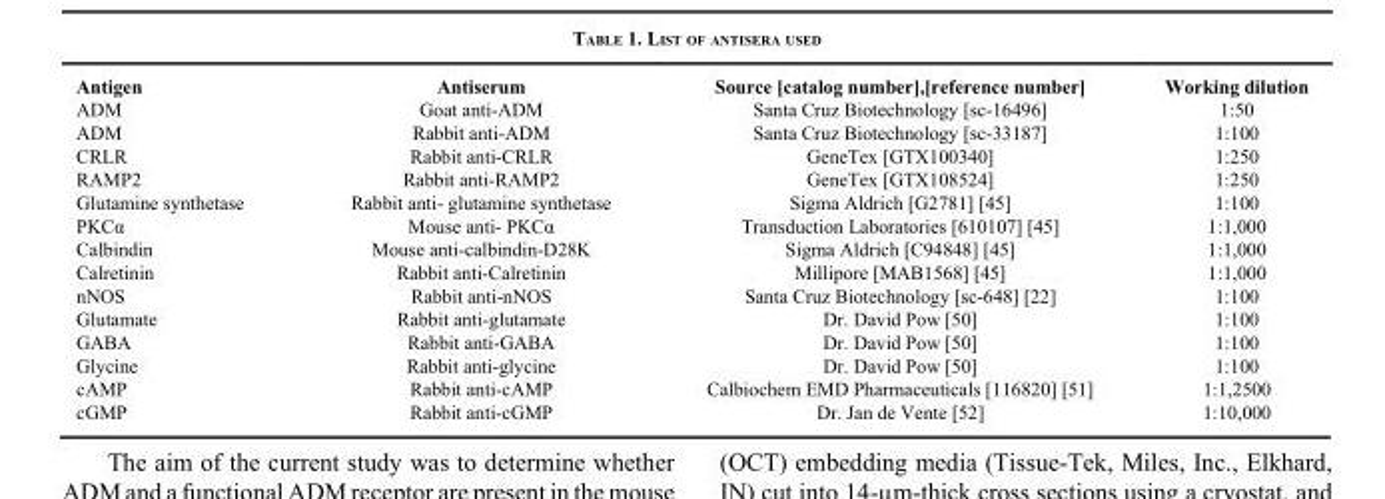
<table><thead><tr><td>Antigen</td><td>Antiserum</td><td>Source [catalog number],[reference number]</td><td>Working dilution</td></tr></thead><tbody><tr><td>ADM</td><td>Goat anti-ADM</td><td>Santa Cruz Biotechnology [sc-16496]</td><td>1:50</td></tr><tr><td>ADM</td><td>Rabbit anti-ADM</td><td>Santa Cruz Biotechnology [sc-33187]</td><td>1:100</td></tr><tr><td>CRLR</td><td>Rabbit anti-CRLR</td><td>GeneTex [GTX100340]</td><td>1:250</td></tr><tr><td>RAMP2</td><td>Rabbit anti-RAMP2</td><td>GeneTex [GTX108524]</td><td>1:250</td></tr><tr><td>Glutamine synthetase</td><td>Rabbit anti- glutamine synthetase</td><td>Sigma Aldrich [G2781] [45]</td><td>1:100</td></tr><tr><td>PKCα</td><td>Mouse anti- PKCα</td><td>Transduction Laboratories [610107] [45]</td><td>1:1,000</td></tr><tr><td>Calbindin</td><td>Mouse anti-calbindin-D28K</td><td>Sigma Aldrich [C94848] [45]</td><td>1:1,000</td></tr><tr><td>Calretinin</td><td>Rabbit anti-Calretinin</td><td>Millipore [MAB1568] [45]</td><td>1:1,000</td></tr><tr><td>nNOS</td><td>Rabbit anti-nNOS</td><td>Santa Cruz Biotechnology [sc-648] [22]</td><td>1:100</td></tr><tr><td>Glutamate</td><td>Rabbit anti-glutamate</td><td>Dr. David Pow [50]</td><td>1:100</td></tr><tr><td>GABA</td><td>Rabbit anti-GABA</td><td>Dr. David Pow [50]</td><td>1:100</td></tr><tr><td>Glycine</td><td>Rabbit anti-glycine</td><td>Dr. David Pow [50]</td><td>1:100</td></tr><tr><td>cAMP</td><td>Rabbit anti-cAMP</td><td>Calbiochem EMD Pharmaceuticals [116820] [51]</td><td>1:1,2500</td></tr><tr><td>cGMP</td><td>Rabbit anti-cGMP</td><td>Dr. Jan de Vente [52]</td><td>1:10,000</td></tr></tbody></table>